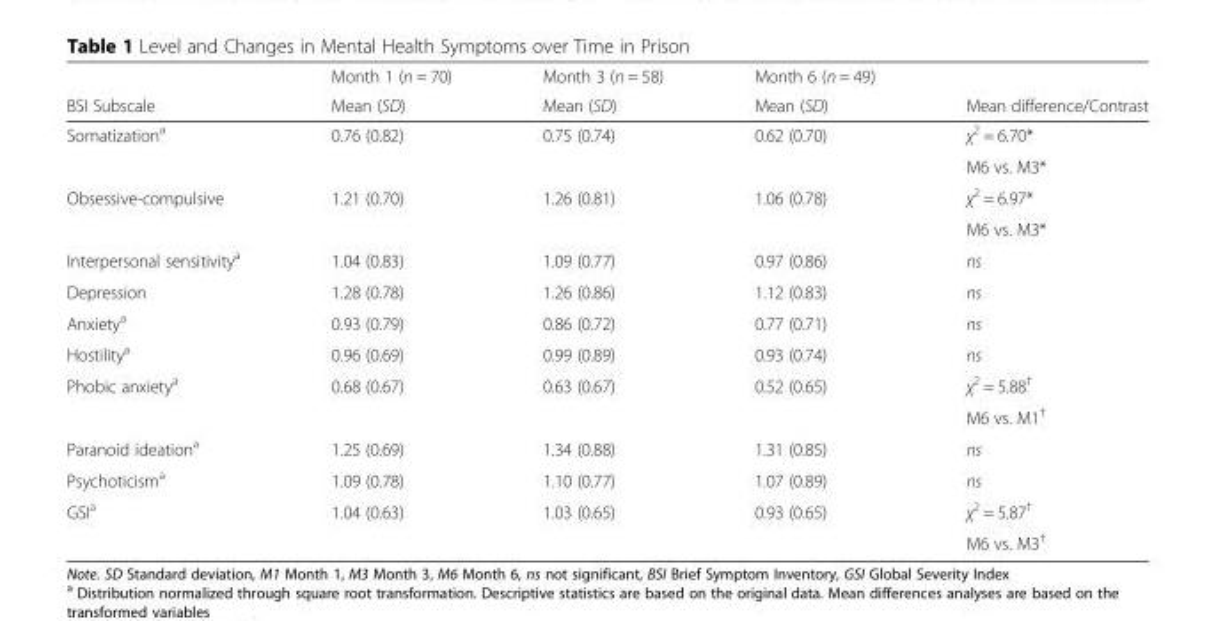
<table><thead><tr><td rowspan="2">BSI Subscale</td><td rowspan="2">Month 1 (n = 70) Mean (SD)</td><td rowspan="2">Month 3 (n = 58) Mean (SD)</td><td rowspan="2">Month 6 (n = 49) Mean (SD)</td><td rowspan="2">Mean difference/Contrast</td></tr><tr></tr></thead><tbody><tr><td rowspan="2">Somatization<sup>a</sup></td><td rowspan="2">0.76 (0.82)</td><td rowspan="2">0.75 (0.74)</td><td rowspan="2">0.62 (0.70)</td><td>χ<sup>2</sup> = 6.70*</td></tr><tr><td>M6 vs. M3*</td></tr><tr><td rowspan="2">Obsessive-compulsive</td><td rowspan="2">1.21 (0.70)</td><td rowspan="2">1.26 (0.81)</td><td rowspan="2">1.06 (0.78)</td><td>χ<sup>2</sup> = 6.97*</td></tr><tr><td>M6 vs. M3*</td></tr><tr><td>Interpersonal sensitivity<sup>a</sup></td><td>1.04 (0.83)</td><td>1.09 (0.77)</td><td>0.97 (0.86)</td><td>ns</td></tr><tr><td>Depression</td><td>1.28 (0.78)</td><td>1.26 (0.86)</td><td>1.12 (0.83)</td><td>ns</td></tr><tr><td>Anxiety<sup>a</sup></td><td>0.93 (0.79)</td><td>0.86 (0.72)</td><td>0.77 (0.71)</td><td>ns</td></tr><tr><td>Hostility<sup>a</sup></td><td>0.96 (0.69)</td><td>0.99 (0.89)</td><td>0.93 (0.74)</td><td>ns</td></tr><tr><td rowspan="2">Phobic anxiety<sup>a</sup></td><td rowspan="2">0.68 (0.67)</td><td rowspan="2">0.63 (0.67)</td><td rowspan="2">0.52 (0.65)</td><td>χ<sup>2</sup> = 5.88<sup>†</sup></td></tr><tr><td>M6 vs. M1<sup>†</sup></td></tr><tr><td>Paranoid ideation<sup>a</sup></td><td>1.25 (0.69)</td><td>1.34 (0.88)</td><td>1.31 (0.85)</td><td>ns</td></tr><tr><td>Psychoticism<sup>a</sup></td><td>1.09 (0.78)</td><td>1.10 (0.77)</td><td>1.07 (0.89)</td><td>ns</td></tr><tr><td rowspan="2">GSI<sup>a</sup></td><td rowspan="2">1.04 (0.63)</td><td rowspan="2">1.03 (0.65)</td><td rowspan="2">0.93 (0.65)</td><td>χ<sup>2</sup> = 5.87<sup>†</sup></td></tr><tr><td>M6 vs. M3<sup>†</sup></td></tr></tbody></table>